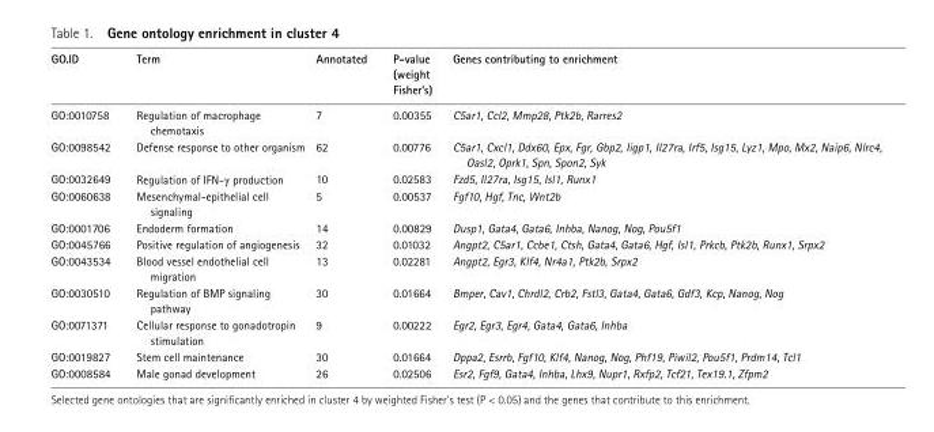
<table><thead><tr><td>GO.ID</td><td>Term</td><td>Annotated</td><td>P-value (weight Fisher’s)</td><td>Genes contributing to enrichment</td></tr></thead><tbody><tr><td>GO :0010758</td><td>Regulation of macrophage chemotaxis</td><td>7</td><td>0.00355</td><td>C5ar1, Ccl2, Mmp28, Ptk2b, Rarres2</td></tr><tr><td>GO :0098542</td><td>Defense response to other organism</td><td>62</td><td>0.00776</td><td>C5ar1, Cxcl1, Ddx60, Epx, Fgr, Gbp2, Iigp1, Il27ra, Irf5, Isg15, Lyz1, Mpo, Mx2, Naip6, Nlrc4, Oasl2, Oprk1, Spn, Spon2, Syk</td></tr><tr><td>GO :0032649</td><td>Regulation of IFN-γ production</td><td>10</td><td>0.02583</td><td>Fzd5, Il27ra, Isg15, Isl1, Runx1</td></tr><tr><td>GO :0060638</td><td>Mesenchymal-epithelial cell signaling</td><td>5</td><td>0.00537</td><td>Fgf10, Hgf, Tnc, Wnt2b</td></tr><tr><td>GO :0001706</td><td>Endoderm formation</td><td>14</td><td>0.00829</td><td>Dusp1, Gata4, Gata6, Inhba, Nanog, Nog, Pou5f1</td></tr><tr><td>GO :0045766</td><td>Positive regulation of angiogenesis</td><td>32</td><td>0.01032</td><td>Angpt2, C5ar1, Ccbe1, Ctsh, Gata4, Gata6, Hgf, Isl1, Prkcb, Ptk2b, Runx1, Srpx2</td></tr><tr><td>GO :0043534</td><td>Blood vessel endothelial cell migration</td><td>13</td><td>0.02281</td><td>Angpt2, Egr3, Klf4, Nr4a1, Ptk2b, Srpx2</td></tr><tr><td>GO :0030510</td><td>Regulation of BMP signaling pathway</td><td>30</td><td>0.01664</td><td>Bmper, Cav1, Chrdl2, Crb2, Fstl3, Gata4, Gata6, Gdf3, Kcp, Nanog, Nog</td></tr><tr><td>GO :0071371</td><td>Cellular response to gonadotropin stimulation</td><td>9</td><td>0.00222</td><td>Egr2, Egr3, Egr4, Gata4, Gata6, Inhba</td></tr><tr><td>GO :0019827</td><td>Stem cell maintenance</td><td>30</td><td>0.01664</td><td>Dppa2, Esrrb, Fgf10, Klf4, Nanog, Nog, Phf19, Piwil2, Pou5f1, Prdm14, Tcl1</td></tr><tr><td>GO :0008584</td><td>Male gonad development</td><td>26</td><td>0.02506</td><td>Esr2, Fgf9, Gata4, Inhba, Lhx9, Nupr1, Rxfp2, Tcf21, Tex19.1, Zfpm2</td></tr></tbody></table>